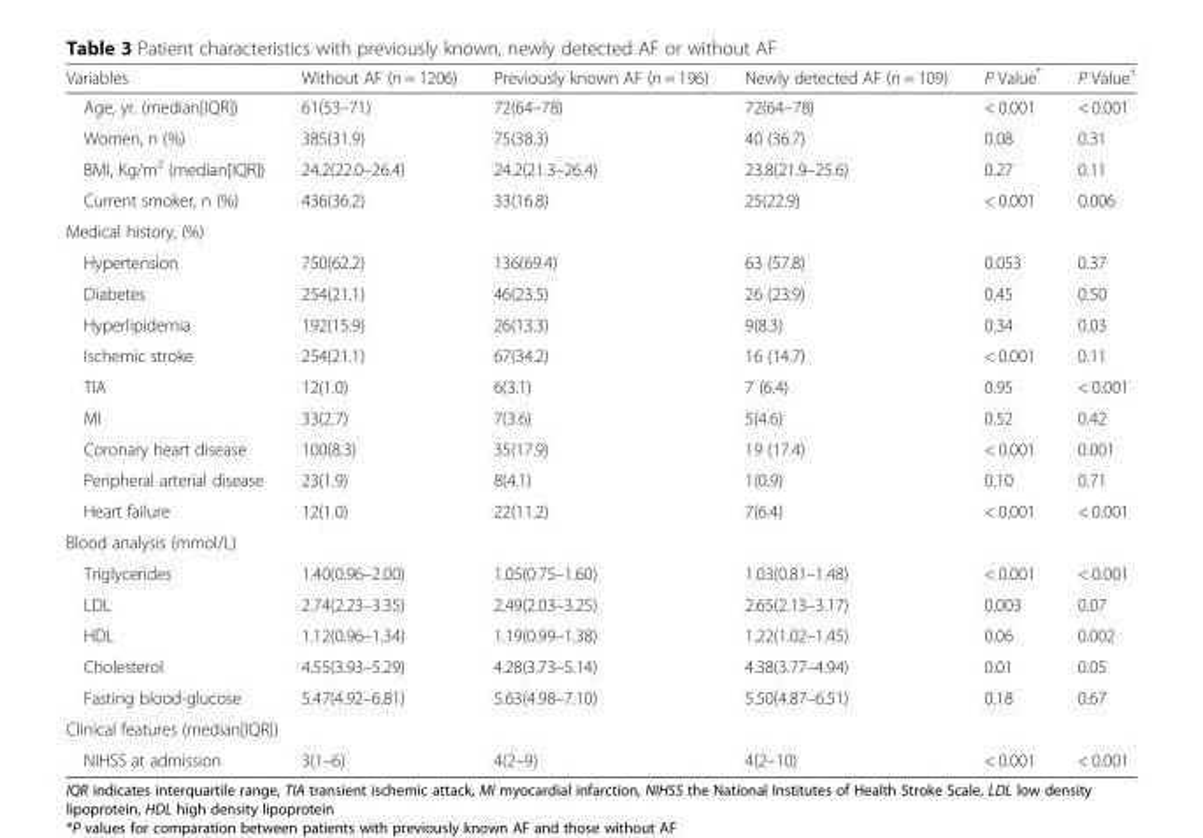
<table><thead><tr><td>Variables</td><td>Without AF (n = 1206)</td><td>Previously known AF (n = 196)</td><td>Newly detected AF (n = 109)</td><td>P Value*</td><td>P Value<sup>†</sup></td></tr></thead><tbody><tr><td>Age, yr. (median[IQR])</td><td>61(53–71)</td><td>72(64–78)</td><td>72(64–78)</td><td>&lt; 0.001</td><td>&lt; 0.001</td></tr><tr><td>Women, n (%)</td><td>385(31.9)</td><td>75(38.3)</td><td>40 (36.7)</td><td>0.08</td><td>0.31</td></tr><tr><td>BMI, Kg/m<sup>2</sup> (median[IQR])</td><td>24.2(22.0–26.4)</td><td>24.2(21.3–26.4)</td><td>23.8(21.9–25.6)</td><td>0.27</td><td>0.11</td></tr><tr><td>Current smoker, n (%)</td><td>436(36.2)</td><td>33(16.8)</td><td>25(22.9)</td><td>&lt; 0.001</td><td>0.006</td></tr><tr><td colspan="6">Medical history, (%)</td></tr><tr><td>Hypertension</td><td>750(62.2)</td><td>136(69.4)</td><td>63 (57.8)</td><td>0.053</td><td>0.37</td></tr><tr><td>Diabetes</td><td>254(21.1)</td><td>46(23.5)</td><td>26 (23.9)</td><td>0.45</td><td>0.50</td></tr><tr><td>Hyperlipidemia</td><td>192(15.9)</td><td>26(13.3)</td><td>9(8.3)</td><td>0.34</td><td>0.03</td></tr><tr><td>Ischemic stroke</td><td>254(21.1)</td><td>67(34.2)</td><td>16 (14.7)</td><td>&lt; 0.001</td><td>0.11</td></tr><tr><td>TIA</td><td>12(1.0)</td><td>6(3.1)</td><td>7 (6.4)</td><td>0.95</td><td>&lt; 0.001</td></tr><tr><td>MI</td><td>33(2.7)</td><td>7(3.6)</td><td>5(4.6)</td><td>0.52</td><td>0.42</td></tr><tr><td>Coronary heart disease</td><td>100(8.3)</td><td>35(17.9)</td><td>19 (17.4)</td><td>&lt; 0.001</td><td>0.001</td></tr><tr><td>Peripheral arterial disease</td><td>23(1.9)</td><td>8(4.1)</td><td>1(0.9)</td><td>0.10</td><td>0.71</td></tr><tr><td>Heart failure</td><td>12(1.0)</td><td>22(11.2)</td><td>7(6.4)</td><td>&lt; 0.001</td><td>&lt; 0.001</td></tr><tr><td colspan="6">Blood analysis (mmol/L)</td></tr><tr><td>Triglycerides</td><td>1.40(0.96–2.00)</td><td>1.05(0.75–1.60)</td><td>1.03(0.81–1.48)</td><td>&lt; 0.001</td><td>&lt; 0.001</td></tr><tr><td>LDL</td><td>2.74(2.23–3.35)</td><td>2.49(2.03–3.25)</td><td>2.65(2.13–3.17)</td><td>0.003</td><td>0.07</td></tr><tr><td>HDL</td><td>1.12(0.96–1.34)</td><td>1.19(0.99–1.38)</td><td>1.22(1.02–1.45)</td><td>0.06</td><td>0.002</td></tr><tr><td>Cholesterol</td><td>4.55(3.93–5.29)</td><td>4.28(3.73–5.14)</td><td>4.38(3.77–4.94)</td><td>0.01</td><td>0.05</td></tr><tr><td>Fasting blood-glucose</td><td>5.47(4.92–6.81)</td><td>5.63(4.98–7.10)</td><td>5.50(4.87–6.51)</td><td>0.18</td><td>0.67</td></tr><tr><td colspan="6">Clinical features (median[IQR])</td></tr><tr><td>NIHSS at admission</td><td>3(1–6)</td><td>4(2–9)</td><td>4(2–10)</td><td>&lt; 0.001</td><td>&lt; 0.001</td></tr></tbody></table>